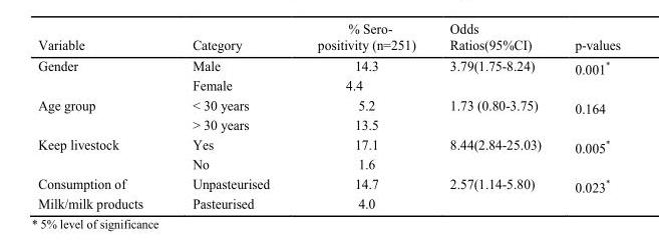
<table><thead><tr><td>Variable</td><td>Category</td><td>positivity (n=251)</td><td>Ratios(95%CI)</td><td>p-values</td></tr></thead><tbody><tr><td rowspan="2">Gender</td><td>Male</td><td>14.3</td><td>3.79(1.75-8.24)</td><td>0.001*</td></tr><tr><td>Female</td><td>4.4</td><td></td><td></td></tr><tr><td rowspan="2">Age group</td><td>&lt; 30 years</td><td>5.2</td><td>1.73 (0.80-3.75)</td><td>0.164</td></tr><tr><td>&gt; 30 years</td><td>13.5</td><td></td><td></td></tr><tr><td rowspan="2">Keep livestock</td><td>Yes</td><td>17.1</td><td>8.44(2.84-25.03)</td><td>0.005*</td></tr><tr><td>No</td><td>1.6</td><td></td><td></td></tr><tr><td>Consumption of</td><td>Unpasteurised</td><td>14.7</td><td>2.57(1.14-5.80)</td><td>0.023*</td></tr><tr><td>Milk/milk products</td><td>Pasteurised</td><td>4.0</td><td></td><td></td></tr></tbody></table>